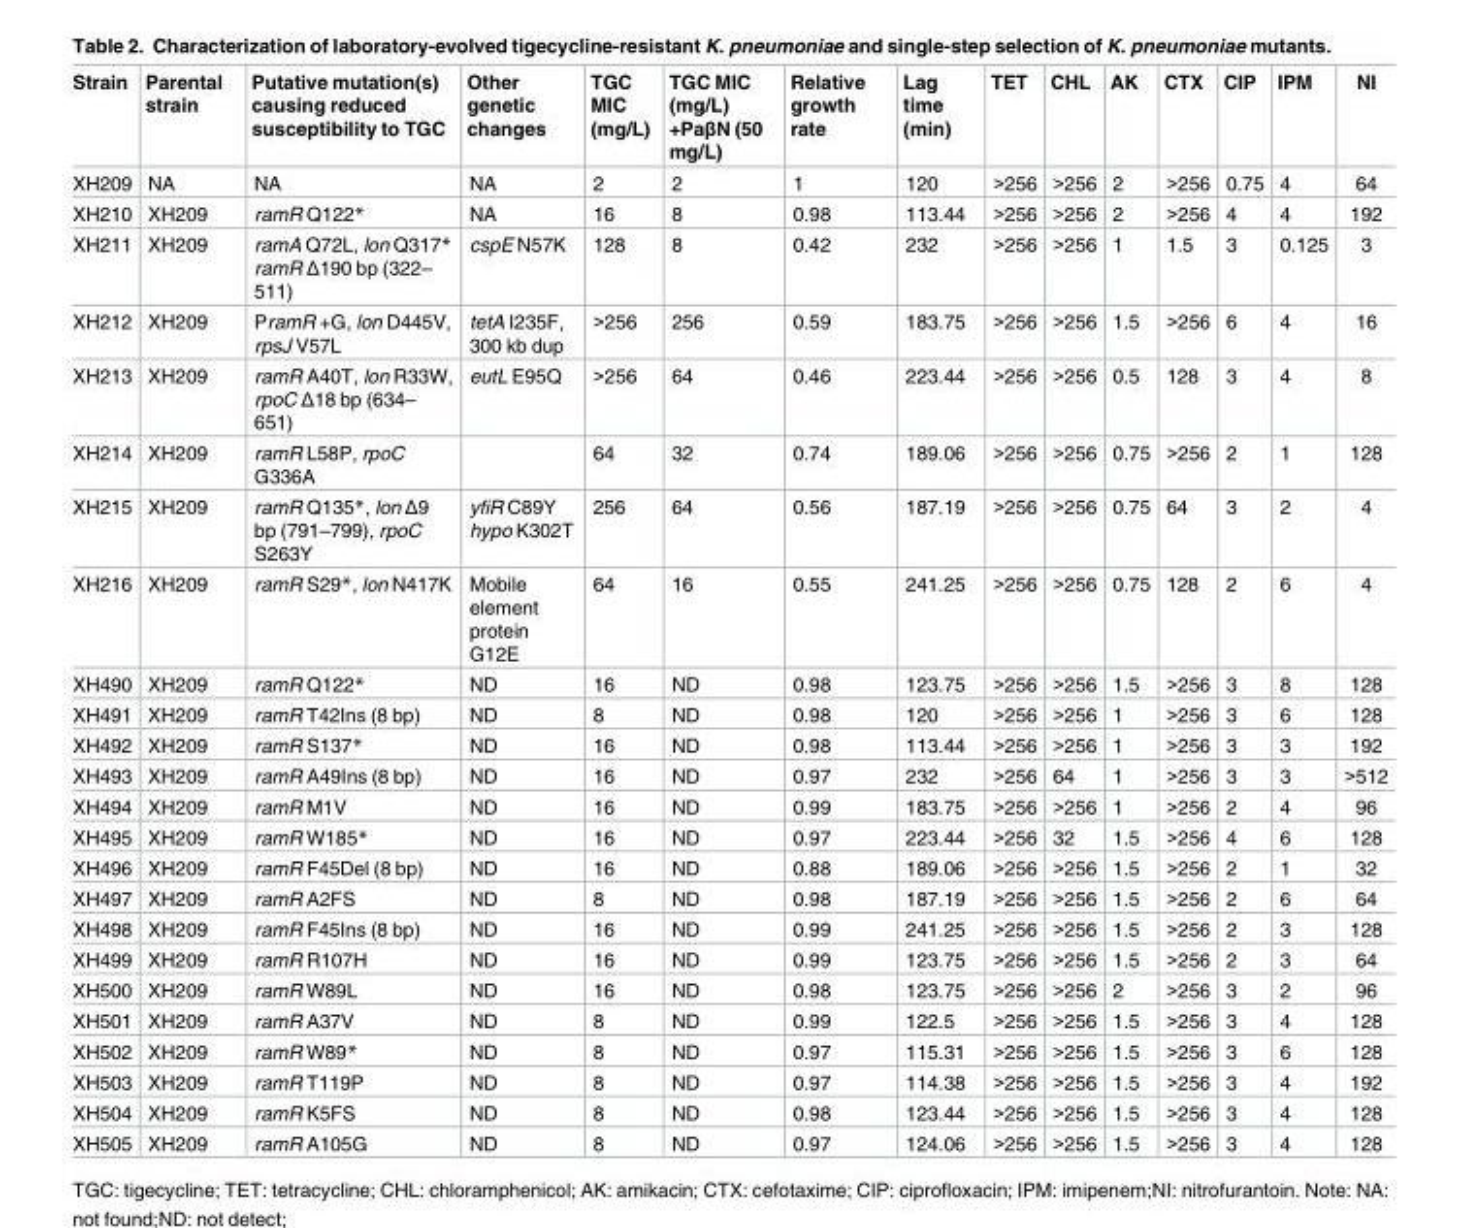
<table><thead><tr><td>Strain</td><td>Parental strain</td><td>Putative mutation(s) causing reduced susceptibility to TGC</td><td>Other genetic changes</td><td>TGC MIC (mg/L)</td><td>TGC MIC (mg/L) +PaβN (50 mg/L)</td><td>Relative growth rate</td><td>Lag time (min)</td><td>TET</td><td>CHL</td><td>AK</td><td>CTX</td><td>CIP</td><td>IPM</td><td>NI</td></tr></thead><tbody><tr><td>XH209</td><td>NA</td><td>NA</td><td>NA</td><td>2</td><td>2</td><td>1</td><td>120</td><td>&gt;256</td><td>&gt;256</td><td>2</td><td>&gt;256</td><td>0.75</td><td>4</td><td>64</td></tr><tr><td>XH210</td><td>XH209</td><td>ramR Q122*</td><td>NA</td><td>16</td><td>8</td><td>0.98</td><td>113.44</td><td>&gt;256</td><td>&gt;256</td><td>2</td><td>&gt;256</td><td>4</td><td>4</td><td>192</td></tr><tr><td>XH211</td><td>XH209</td><td>ramA Q72L, lon Q317* ramR Δ190 bp (322– 511)</td><td>cspE N57K</td><td>128</td><td>8</td><td>0.42</td><td>232</td><td>&gt;256</td><td>&gt;256</td><td>1</td><td>1.5</td><td>3</td><td>0.125</td><td>3</td></tr><tr><td>XH212</td><td>XH209</td><td>PramR +G, lon D445V, rpsJ V57L</td><td>tetA I235F, 300 kb dup</td><td>&gt;256</td><td>256</td><td>0.59</td><td>183.75</td><td>&gt;256</td><td>&gt;256</td><td>1.5</td><td>&gt;256</td><td>6</td><td>4</td><td>16</td></tr><tr><td>XH213</td><td>XH209</td><td>ramR A40T, lon R33W, rpoC Δ18 bp (634– 651)</td><td>eutL E95Q</td><td>&gt;256</td><td>64</td><td>0.46</td><td>223.44</td><td>&gt;256</td><td>&gt;256</td><td>0.5</td><td>128</td><td>3</td><td>4</td><td>8</td></tr><tr><td>XH214</td><td>XH209</td><td>ramR L58P, rpoC G336A</td><td></td><td>64</td><td>32</td><td>0.74</td><td>189.06</td><td>&gt;256</td><td>&gt;256</td><td>0.75</td><td>&gt;256</td><td>2</td><td>1</td><td>128</td></tr><tr><td>XH215</td><td>XH209</td><td>ramR Q135*, lon Δ9 bp (791–799), rpoC S263Y</td><td>yfiR C89Y hypo K302T</td><td>256</td><td>64</td><td>0.56</td><td>187.19</td><td>&gt;256</td><td>&gt;256</td><td>0.75</td><td>64</td><td>3</td><td>2</td><td>4</td></tr><tr><td>XH216</td><td>XH209</td><td>ramR S29*, lon N417K</td><td>Mobile element protein G12E</td><td>64</td><td>16</td><td>0.55</td><td>241.25</td><td>&gt;256</td><td>&gt;256</td><td>0.75</td><td>128</td><td>2</td><td>6</td><td>4</td></tr><tr><td>XH490</td><td>XH209</td><td>ramR Q122*</td><td>ND</td><td>16</td><td>ND</td><td>0.98</td><td>123.75</td><td>&gt;256</td><td>&gt;256</td><td>1.5</td><td>&gt;256</td><td>3</td><td>8</td><td>128</td></tr><tr><td>XH491</td><td>XH209</td><td>ramR T42Ins (8 bp)</td><td>ND</td><td>8</td><td>ND</td><td>0.98</td><td>120</td><td>&gt;256</td><td>&gt;256</td><td>1</td><td>&gt;256</td><td>3</td><td>6</td><td>128</td></tr><tr><td>XH492</td><td>XH209</td><td>ramR S137*</td><td>ND</td><td>16</td><td>ND</td><td>0.98</td><td>113.44</td><td>&gt;256</td><td>&gt;256</td><td>1</td><td>&gt;256</td><td>3</td><td>3</td><td>192</td></tr><tr><td>XH493</td><td>XH209</td><td>ramR A49Ins (8 bp)</td><td>ND</td><td>16</td><td>ND</td><td>0.97</td><td>232</td><td>&gt;256</td><td>64</td><td>1</td><td>&gt;256</td><td>3</td><td>3</td><td>&gt;512</td></tr><tr><td>XH494</td><td>XH209</td><td>ramR M1V</td><td>ND</td><td>16</td><td>ND</td><td>0.99</td><td>183.75</td><td>&gt;256</td><td>&gt;256</td><td>1</td><td>&gt;256</td><td>2</td><td>4</td><td>96</td></tr><tr><td>XH495</td><td>XH209</td><td>ramR W185*</td><td>ND</td><td>16</td><td>ND</td><td>0.97</td><td>223.44</td><td>&gt;256</td><td>32</td><td>1.5</td><td>&gt;256</td><td>4</td><td>6</td><td>128</td></tr><tr><td>XH496</td><td>XH209</td><td>ramR F45Del (8 bp)</td><td>ND</td><td>16</td><td>ND</td><td>0.88</td><td>189.06</td><td>&gt;256</td><td>&gt;256</td><td>1.5</td><td>&gt;256</td><td>2</td><td>1</td><td>32</td></tr><tr><td>XH497</td><td>XH209</td><td>ramR A2FS</td><td>ND</td><td>8</td><td>ND</td><td>0.98</td><td>187.19</td><td>&gt;256</td><td>&gt;256</td><td>1.5</td><td>&gt;256</td><td>2</td><td>6</td><td>64</td></tr><tr><td>XH498</td><td>XH209</td><td>ramR F45Ins (8 bp)</td><td>ND</td><td>16</td><td>ND</td><td>0.99</td><td>241.25</td><td>&gt;256</td><td>&gt;256</td><td>1.5</td><td>&gt;256</td><td>2</td><td>3</td><td>128</td></tr><tr><td>XH499</td><td>XH209</td><td>ramR R107H</td><td>ND</td><td>16</td><td>ND</td><td>0.99</td><td>123.75</td><td>&gt;256</td><td>&gt;256</td><td>1.5</td><td>&gt;256</td><td>2</td><td>3</td><td>64</td></tr><tr><td>XH500</td><td>XH209</td><td>ramR W89L</td><td>ND</td><td>16</td><td>ND</td><td>0.98</td><td>123.75</td><td>&gt;256</td><td>&gt;256</td><td>2</td><td>&gt;256</td><td>3</td><td>2</td><td>96</td></tr><tr><td>XH501</td><td>XH209</td><td>ramR A37V</td><td>ND</td><td>8</td><td>ND</td><td>0.99</td><td>122.5</td><td>&gt;256</td><td>&gt;256</td><td>1.5</td><td>&gt;256</td><td>3</td><td>4</td><td>128</td></tr><tr><td>XH502</td><td>XH209</td><td>ramR W89*</td><td>ND</td><td>8</td><td>ND</td><td>0.97</td><td>115.31</td><td>&gt;256</td><td>&gt;256</td><td>1.5</td><td>&gt;256</td><td>3</td><td>6</td><td>128</td></tr><tr><td>XH503</td><td>XH209</td><td>ramR T119P</td><td>ND</td><td>8</td><td>ND</td><td>0.97</td><td>114.38</td><td>&gt;256</td><td>&gt;256</td><td>1.5</td><td>&gt;256</td><td>3</td><td>4</td><td>192</td></tr><tr><td>XH504</td><td>XH209</td><td>ramR K5FS</td><td>ND</td><td>8</td><td>ND</td><td>0.98</td><td>123.44</td><td>&gt;256</td><td>&gt;256</td><td>1.5</td><td>&gt;256</td><td>3</td><td>4</td><td>128</td></tr><tr><td>XH505</td><td>XH209</td><td>ramR A105G</td><td>ND</td><td>8</td><td>ND</td><td>0.97</td><td>124.06</td><td>&gt;256</td><td>&gt;256</td><td>1.5</td><td>&gt;256</td><td>3</td><td>4</td><td>128</td></tr></tbody></table>